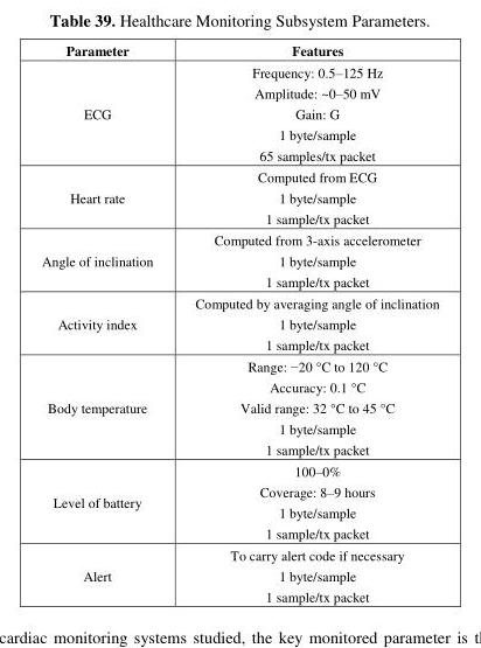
<table><thead><tr><td>Parameter</td><td>Features</td></tr></thead><tbody><tr><td>ECG</td><td>Frequency: 0.5–125 Hz Amplitude: ~0–50 mV Gain: G 1 byte/sample 65 samples/tx packet</td></tr><tr><td>Heart rate</td><td>Computed from ECG 1 byte/sample 1 sample/tx packet</td></tr><tr><td>Angle of inclination</td><td>Computed from 3-axis accelerometer 1 byte/sample 1 sample/tx packet</td></tr><tr><td>Activity index</td><td>Computed by averaging angle of inclination 1 byte/sample 1 sample/tx packet</td></tr><tr><td>Body temperature</td><td>Range: −20 °C to 120 °C Accuracy: 0.1 °C Valid range: 32 °C to 45 °C 1 byte/sample 1 sample/tx packet</td></tr><tr><td>Level of battery</td><td>100–0% Coverage: 8–9 hours 1 byte/sample 1 sample/tx packet</td></tr><tr><td>Alert</td><td>To carry alert code if necessary 1 byte/sample 1 sample/tx packet</td></tr></tbody></table>